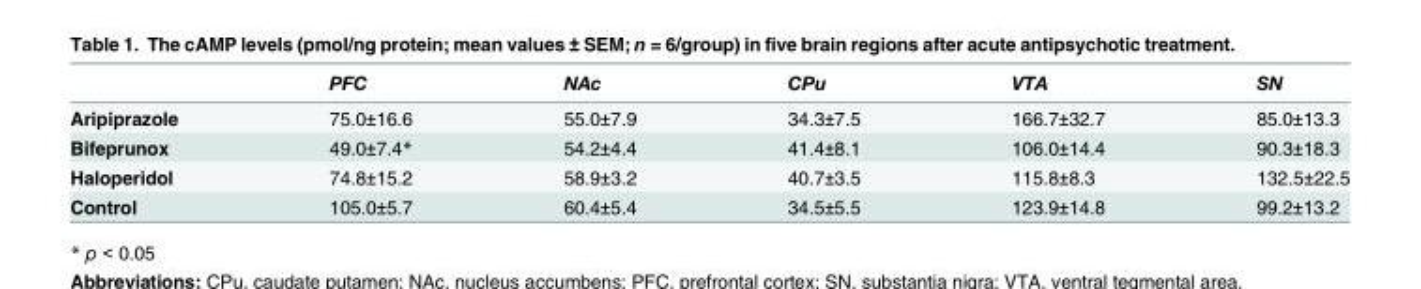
<table><thead><tr><td></td><td>PFC</td><td>NAc</td><td>CPu</td><td>VTA</td><td>SN</td></tr></thead><tbody><tr><td>Aripiprazole</td><td>75.0±16.6</td><td>55.0±7.9</td><td>34.3±7.5</td><td>166.7±32.7</td><td>85.0±13.3</td></tr><tr><td>Bifeprunox</td><td>49.0±7.4*</td><td>54.2±4.4</td><td>41.4±8.1</td><td>106.0±14.4</td><td>90.3±18.3</td></tr><tr><td>Haloperidol</td><td>74.8±15.2</td><td>58.9±3.2</td><td>40.7±3.5</td><td>115.8±8.3</td><td>132.5±22.5</td></tr><tr><td>Control</td><td>105.0±5.7</td><td>60.4±5.4</td><td>34.5±5.5</td><td>123.9±14.8</td><td>99.2±13.2</td></tr></tbody></table>